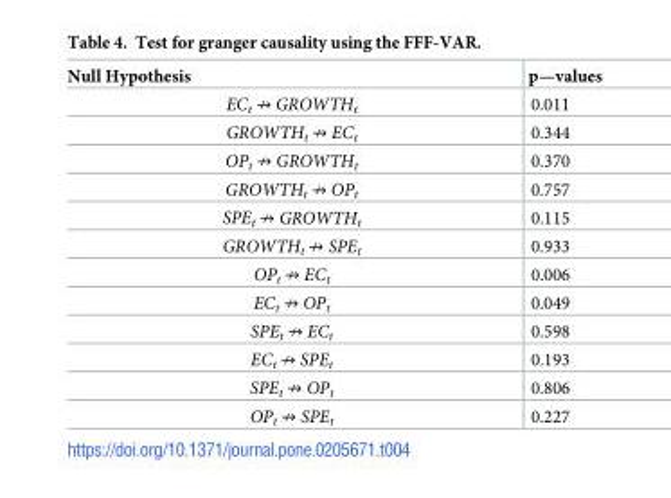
<table><thead><tr><td>Null Hypothesis</td><td>p—values</td></tr></thead><tbody><tr><td>EC<sub>t</sub> ↛ GROWTH<sub>t</sub></td><td>0.011</td></tr><tr><td>GROWTH<sub>t</sub> ↛ EC<sub>t</sub></td><td>0.344</td></tr><tr><td>OP<sub>t</sub> ↛ GROWTH<sub>t</sub></td><td>0.370</td></tr><tr><td>GROWTH<sub>t</sub> ↛ OP<sub>t</sub></td><td>0.757</td></tr><tr><td>SPE<sub>t</sub> ↛ GROWTH<sub>t</sub></td><td>0.115</td></tr><tr><td>GROWTH<sub>t</sub> ↛ SPE<sub>t</sub></td><td>0.933</td></tr><tr><td>OP<sub>t</sub> ↛ EC<sub>t</sub></td><td>0.006</td></tr><tr><td>EC<sub>t</sub> ↛ OP<sub>t</sub></td><td>0.049</td></tr><tr><td>SPE<sub>t</sub> ↛ EC<sub>t</sub></td><td>0.598</td></tr><tr><td>EC<sub>t</sub> ↛ SPE<sub>t</sub></td><td>0.193</td></tr><tr><td>SPE<sub>t</sub> ↛ OP<sub>t</sub></td><td>0.806</td></tr><tr><td>OP<sub>t</sub> ↛ SPE<sub>t</sub></td><td>0.227</td></tr></tbody></table>